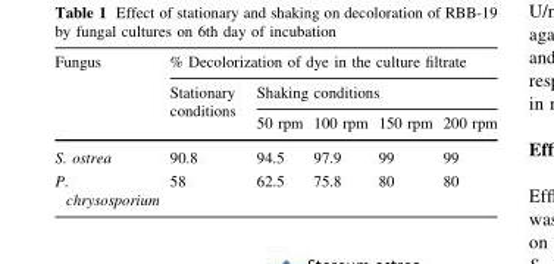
<table><thead><tr><td rowspan="3">Fungus</td><td colspan="5">% Decolorization of dye in the culture filtrate</td></tr><tr><td rowspan="2">Stationary conditions</td><td colspan="4">Shaking conditions</td></tr><tr><td>50 rpm</td><td>100 rpm</td><td>150 rpm</td><td>200 rpm</td></tr></thead><tbody><tr><td>S. ostrea</td><td>90.8</td><td>94.5</td><td>97.9</td><td>99</td><td>99</td></tr><tr><td>P. chrysosporium</td><td>58</td><td>62.5</td><td>75.8</td><td>80</td><td>80</td></tr></tbody></table>